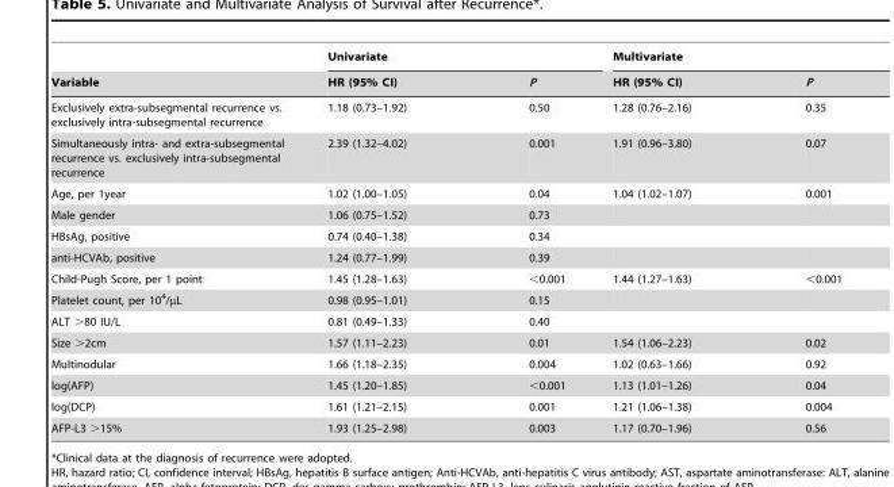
<table><thead><tr><td rowspan="2">Variable</td><td colspan="2">Univariate</td><td colspan="2">Multivariate</td></tr><tr><td>HR (95% CI)</td><td>P</td><td>HR (95% CI)</td><td>P</td></tr></thead><tbody><tr><td>Exclusively extra-subsegmental recurrence vs. exclusively intra-subsegmental recurrence</td><td>1.18 (0.73–1.92)</td><td>0.50</td><td>1.28 (0.76–2.16)</td><td>0.35</td></tr><tr><td>Simultaneously intra- and extra-subsegmental recurrence vs. exclusively intra-subsegmental recurrence</td><td>2.39 (1.32–4.02)</td><td>0.001</td><td>1.91 (0.96–3.80)</td><td>0.07</td></tr><tr><td>Age, per 1year</td><td>1.02 (1.00–1.05)</td><td>0.04</td><td>1.04 (1.02–1.07)</td><td>0.001</td></tr><tr><td>Male gender</td><td>1.06 (0.75–1.52)</td><td>0.73</td><td></td><td></td></tr><tr><td>HBsAg, positive</td><td>0.74 (0.40–1.38)</td><td>0.34</td><td></td><td></td></tr><tr><td>anti-HCVAb, positive</td><td>1.24 (0.77–1.99)</td><td>0.39</td><td></td><td></td></tr><tr><td>Child-Pugh Score, per 1 point</td><td>1.45 (1.28–1.63)</td><td>&lt;0.001</td><td>1.44 (1.27–1.63)</td><td>&lt;0.001</td></tr><tr><td>Platelet count, per 10<sup>4</sup>/μL</td><td>0.98 (0.95–1.01)</td><td>0.15</td><td></td><td></td></tr><tr><td>ALT &gt;80 IU/L</td><td>0.81 (0.49–1.33)</td><td>0.40</td><td></td><td></td></tr><tr><td>Size &gt;2cm</td><td>1.57 (1.11–2.23)</td><td>0.01</td><td>1.54 (1.06–2.23)</td><td>0.02</td></tr><tr><td>Multinodular</td><td>1.66 (1.18–2.35)</td><td>0.004</td><td>1.02 (0.63–1.66)</td><td>0.92</td></tr><tr><td>log(AFP)</td><td>1.45 (1.20–1.85)</td><td>&lt;0.001</td><td>1.13 (1.01–1.26)</td><td>0.04</td></tr><tr><td>log(DCP)</td><td>1.61 (1.21–2.15)</td><td>0.001</td><td>1.21 (1.06–1.38)</td><td>0.004</td></tr><tr><td>AFP-L3 &gt;15%</td><td>1.93 (1.25–2.98)</td><td>0.003</td><td>1.17 (0.70–1.96)</td><td>0.56</td></tr></tbody></table>